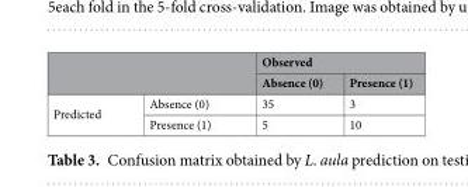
<table><thead><tr><td rowspan="2"></td><td rowspan="2"></td><td colspan="2">Observed</td></tr><tr><td>Absence (0)</td><td>Presence (1)</td></tr></thead><tbody><tr><td rowspan="2">Predicted</td><td>Absence (0)</td><td>35</td><td>3</td></tr><tr><td>Presence (1)</td><td>5</td><td>10</td></tr></tbody></table>